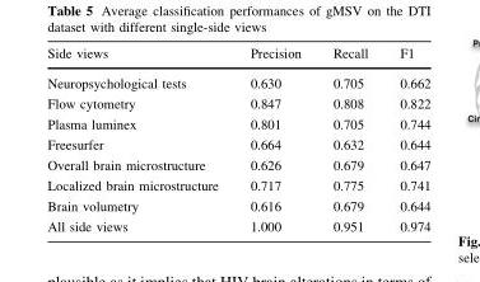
<table><thead><tr><td>Side views</td><td>Precision</td><td>Recall</td><td>F1</td></tr></thead><tbody><tr><td>Neuropsychological tests</td><td>0.630</td><td>0.705</td><td>0.662</td></tr><tr><td>Flow cytometry</td><td>0.847</td><td>0.808</td><td>0.822</td></tr><tr><td>Plasma luminex</td><td>0.801</td><td>0.705</td><td>0.744</td></tr><tr><td>Freesurfer</td><td>0.664</td><td>0.632</td><td>0.644</td></tr><tr><td>Overall brain microstructure</td><td>0.626</td><td>0.679</td><td>0.647</td></tr><tr><td>Localized brain microstructure</td><td>0.717</td><td>0.775</td><td>0.741</td></tr><tr><td>Brain volumetry</td><td>0.616</td><td>0.679</td><td>0.644</td></tr><tr><td>All side views</td><td>1.000</td><td>0.951</td><td>0.974</td></tr></tbody></table>